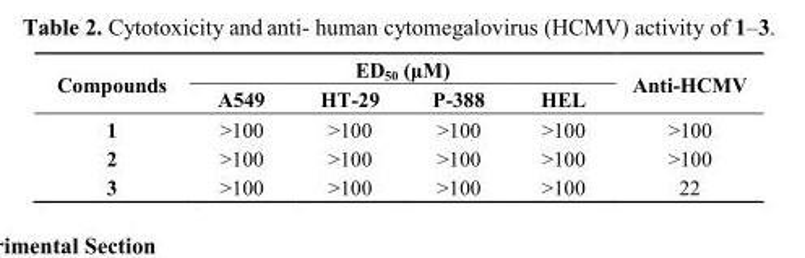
<table><thead><tr><td rowspan="2">Compounds</td><td colspan="4">ED<sub>50</sub> (μM)</td><td rowspan="2">Anti-HCMV</td></tr><tr><td>A549</td><td>HT-29</td><td>P-388</td><td>HEL</td></tr></thead><tbody><tr><td>1</td><td>&gt;100</td><td>&gt;100</td><td>&gt;100</td><td>&gt;100</td><td>&gt;100</td></tr><tr><td>2</td><td>&gt;100</td><td>&gt;100</td><td>&gt;100</td><td>&gt;100</td><td>&gt;100</td></tr><tr><td>3</td><td>&gt;100</td><td>&gt;100</td><td>&gt;100</td><td>&gt;100</td><td>22</td></tr></tbody></table>